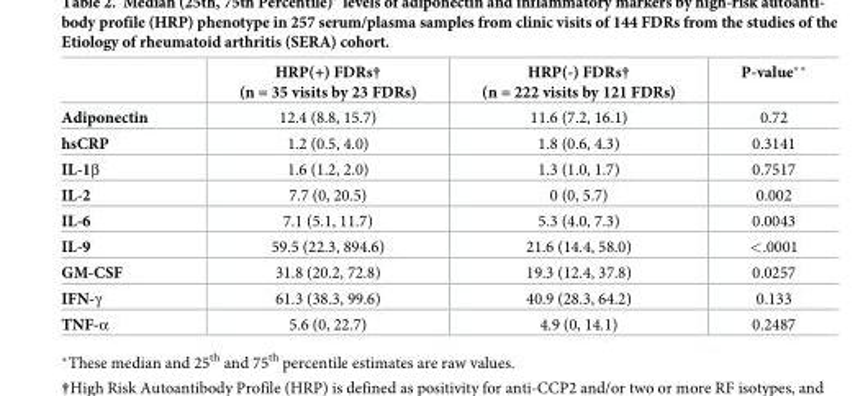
<table><thead><tr><td></td><td>HRP(+) FDRs† (n = 35 visits by 23 FDRs)</td><td>HRP(-) FDRs† (n = 222 visits by 121 FDRs)</td><td>P-value**</td></tr></thead><tbody><tr><td>Adiponectin</td><td>12.4 (8.8, 15.7)</td><td>11.6 (7.2, 16.1)</td><td>0.72</td></tr><tr><td>hsCRP</td><td>1.2 (0.5, 4.0)</td><td>1.8 (0.6, 4.3)</td><td>0.3141</td></tr><tr><td>IL-1β</td><td>1.6 (1.2, 2.0)</td><td>1.3 (1.0, 1.7)</td><td>0.7517</td></tr><tr><td>IL-2</td><td>7.7 (0, 20.5)</td><td>0 (0, 5.7)</td><td>0.002</td></tr><tr><td>IL-6</td><td>7.1 (5.1, 11.7)</td><td>5.3 (4.0, 7.3)</td><td>0.0043</td></tr><tr><td>IL-9</td><td>59.5 (22.3, 894.6)</td><td>21.6 (14.4, 58.0)</td><td>&lt;.0001</td></tr><tr><td>GM-CSF</td><td>31.8 (20.2, 72.8)</td><td>19.3 (12.4, 37.8)</td><td>0.0257</td></tr><tr><td>IFN-γ</td><td>61.3 (38.3, 99.6)</td><td>40.9 (28.3, 64.2)</td><td>0.133</td></tr><tr><td>TNF-α</td><td>5.6 (0, 22.7)</td><td>4.9 (0, 14.1)</td><td>0.2487</td></tr></tbody></table>